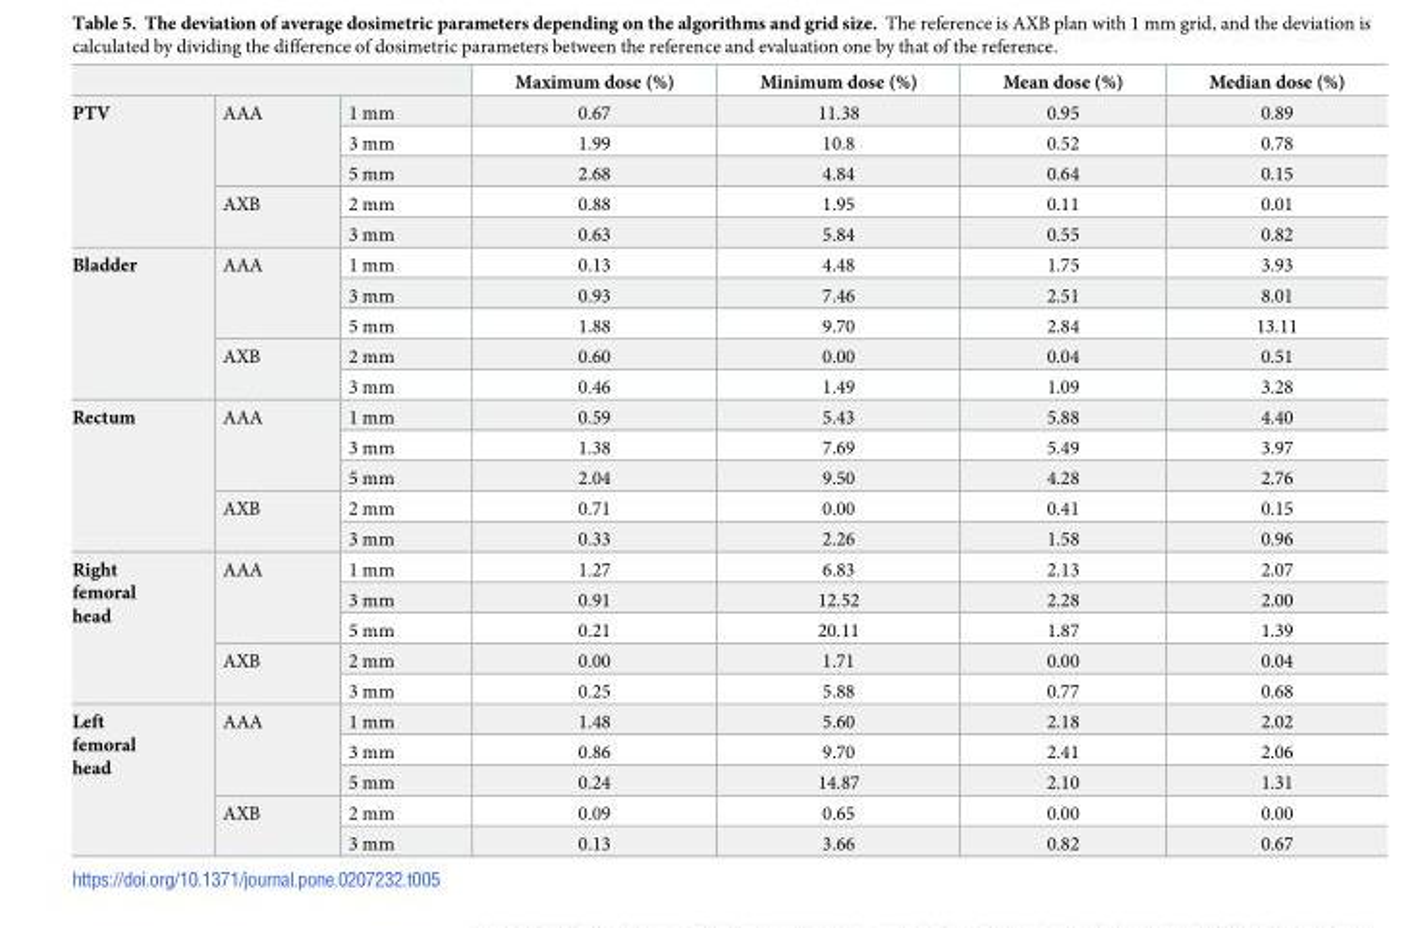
<table><thead><tr><td></td><td></td><td></td><td>Maximum dose (%)</td><td>Minimum dose (%)</td><td>Mean dose (%)</td><td>Median dose (%)</td></tr></thead><tbody><tr><td rowspan="5">PTV</td><td rowspan="3">AAA</td><td>1 mm</td><td>0.67</td><td>11.38</td><td>0.95</td><td>0.89</td></tr><tr><td>3 mm</td><td>1.99</td><td>10.8</td><td>0.52</td><td>0.78</td></tr><tr><td>5 mm</td><td>2.68</td><td>4.84</td><td>0.64</td><td>0.15</td></tr><tr><td rowspan="2">AXB</td><td>2 mm</td><td>0.88</td><td>1.95</td><td>0.11</td><td>0.01</td></tr><tr><td>3 mm</td><td>0.63</td><td>5.84</td><td>0.55</td><td>0.82</td></tr><tr><td rowspan="5">Bladder</td><td rowspan="3">AAA</td><td>1 mm</td><td>0.13</td><td>4.48</td><td>1.75</td><td>3.93</td></tr><tr><td>3 mm</td><td>0.93</td><td>7.46</td><td>2.51</td><td>8.01</td></tr><tr><td>5 mm</td><td>1.88</td><td>9.70</td><td>2.84</td><td>13.11</td></tr><tr><td rowspan="2">AXB</td><td>2 mm</td><td>0.60</td><td>0.00</td><td>0.04</td><td>0.51</td></tr><tr><td>3 mm</td><td>0.46</td><td>1.49</td><td>1.09</td><td>3.28</td></tr><tr><td rowspan="5">Rectum</td><td rowspan="3">AAA</td><td>1 mm</td><td>0.59</td><td>5.43</td><td>5.88</td><td>4.40</td></tr><tr><td>3 mm</td><td>1.38</td><td>7.69</td><td>5.49</td><td>3.97</td></tr><tr><td>5 mm</td><td>2.04</td><td>9.50</td><td>4.28</td><td>2.76</td></tr><tr><td rowspan="2">AXB</td><td>2 mm</td><td>0.71</td><td>0.00</td><td>0.41</td><td>0.15</td></tr><tr><td>3 mm</td><td>0.33</td><td>2.26</td><td>1.58</td><td>0.96</td></tr><tr><td rowspan="5">Right femoral head</td><td rowspan="3">AAA</td><td>1 mm</td><td>1.27</td><td>6.83</td><td>2.13</td><td>2.07</td></tr><tr><td>3 mm</td><td>0.91</td><td>12.52</td><td>2.28</td><td>2.00</td></tr><tr><td>5 mm</td><td>0.21</td><td>20.11</td><td>1.87</td><td>1.39</td></tr><tr><td rowspan="2">AXB</td><td>2 mm</td><td>0.00</td><td>1.71</td><td>0.00</td><td>0.04</td></tr><tr><td>3 mm</td><td>0.25</td><td>5.88</td><td>0.77</td><td>0.68</td></tr><tr><td rowspan="5">Left femoral head</td><td rowspan="3">AAA</td><td>1 mm</td><td>1.48</td><td>5.60</td><td>2.18</td><td>2.02</td></tr><tr><td>3 mm</td><td>0.86</td><td>9.70</td><td>2.41</td><td>2.06</td></tr><tr><td>5 mm</td><td>0.24</td><td>14.87</td><td>2.10</td><td>1.31</td></tr><tr><td rowspan="2">AXB</td><td>2 mm</td><td>0.09</td><td>0.65</td><td>0.00</td><td>0.00</td></tr><tr><td>3 mm</td><td>0.13</td><td>3.66</td><td>0.82</td><td>0.67</td></tr></tbody></table>